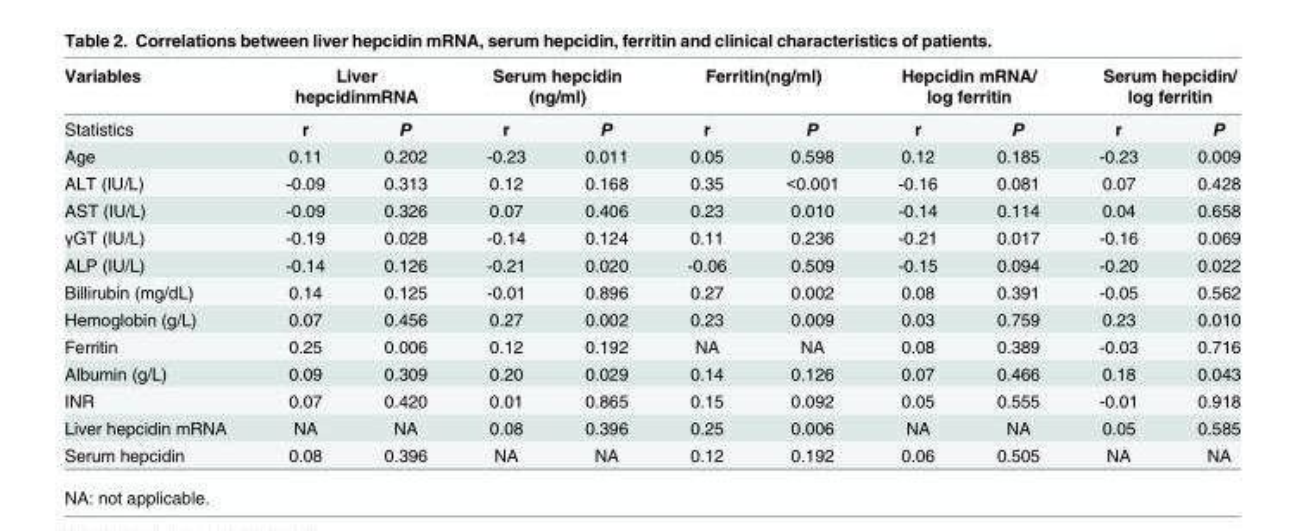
<table><thead><tr><td rowspan="2">Variables Statistics</td><td colspan="2">Liver hepcidinmRNA</td><td colspan="2">Serum hepcidin (ng/ml)</td><td colspan="2">Ferritin(ng/ml)</td><td colspan="2">Hepcidin mRNA/ log ferritin</td><td colspan="2">Serum hepcidin/ log ferritin</td></tr><tr><td>r</td><td>P</td><td>r</td><td>P</td><td>r</td><td>P</td><td>r</td><td>P</td><td>r</td><td>P</td></tr></thead><tbody><tr><td>Age</td><td>0.11</td><td>0.202</td><td>-0.23</td><td>0.011</td><td>0.05</td><td>0.598</td><td>0.12</td><td>0.185</td><td>-0.23</td><td>0.009</td></tr><tr><td>ALT (IU/L)</td><td>-0.09</td><td>0.313</td><td>0.12</td><td>0.168</td><td>0.35</td><td>&lt;0.001</td><td>-0.16</td><td>0.081</td><td>0.07</td><td>0.428</td></tr><tr><td>AST (IU/L)</td><td>-0.09</td><td>0.326</td><td>0.07</td><td>0.406</td><td>0.23</td><td>0.010</td><td>-0.14</td><td>0.114</td><td>0.04</td><td>0.658</td></tr><tr><td>γGT (IU/L)</td><td>-0.19</td><td>0.028</td><td>-0.14</td><td>0.124</td><td>0.11</td><td>0.236</td><td>-0.21</td><td>0.017</td><td>-0.16</td><td>0.069</td></tr><tr><td>ALP (IU/L)</td><td>-0.14</td><td>0.126</td><td>-0.21</td><td>0.020</td><td>-0.06</td><td>0.509</td><td>-0.15</td><td>0.094</td><td>-0.20</td><td>0.022</td></tr><tr><td>Billirubin (mg/dL)</td><td>0.14</td><td>0.125</td><td>-0.01</td><td>0.896</td><td>0.27</td><td>0.002</td><td>0.08</td><td>0.391</td><td>-0.05</td><td>0.562</td></tr><tr><td>Hemoglobin (g/L)</td><td>0.07</td><td>0.456</td><td>0.27</td><td>0.002</td><td>0.23</td><td>0.009</td><td>0.03</td><td>0.759</td><td>0.23</td><td>0.010</td></tr><tr><td>Ferritin</td><td>0.25</td><td>0.006</td><td>0.12</td><td>0.192</td><td>NA</td><td>NA</td><td>0.08</td><td>0.389</td><td>-0.03</td><td>0.716</td></tr><tr><td>Albumin (g/L)</td><td>0.09</td><td>0.309</td><td>0.20</td><td>0.029</td><td>0.14</td><td>0.126</td><td>0.07</td><td>0.466</td><td>0.18</td><td>0.043</td></tr><tr><td>INR</td><td>0.07</td><td>0.420</td><td>0.01</td><td>0.865</td><td>0.15</td><td>0.092</td><td>0.05</td><td>0.555</td><td>-0.01</td><td>0.918</td></tr><tr><td>Liver hepcidin mRNA</td><td>NA</td><td>NA</td><td>0.08</td><td>0.396</td><td>0.25</td><td>0.006</td><td>NA</td><td>NA</td><td>0.05</td><td>0.585</td></tr><tr><td>Serum hepcidin</td><td>0.08</td><td>0.396</td><td>NA</td><td>NA</td><td>0.12</td><td>0.192</td><td>0.06</td><td>0.505</td><td>NA</td><td>NA</td></tr></tbody></table>